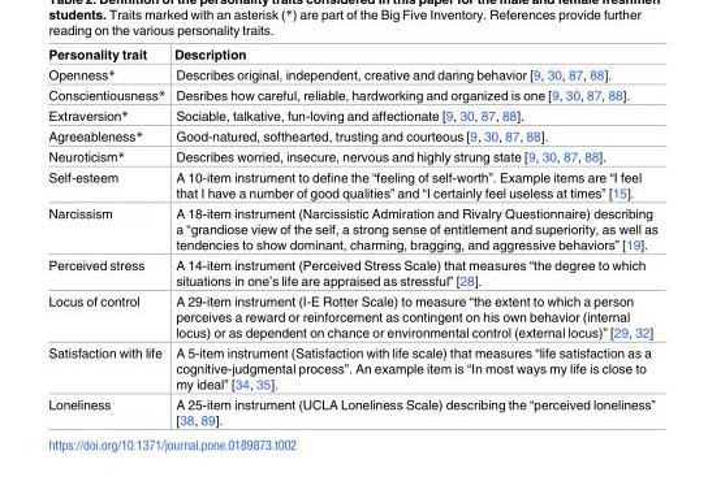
<table><thead><tr><td>Personality trait</td><td>Description</td></tr></thead><tbody><tr><td>Openness*</td><td>Describes original, independent, creative and daring behavior [9, 30, 87, 88].</td></tr><tr><td>Conscientiousness*</td><td>Desribes how careful, reliable, hardworking and organized is one [9, 30, 87, 88].</td></tr><tr><td>Extraversion*</td><td>Sociable, talkative, fun-loving and affectionate [9, 30, 87, 88].</td></tr><tr><td>Agreeableness*</td><td>Good-natured, softhearted, trusting and courteous [9, 30, 87, 88].</td></tr><tr><td>Neuroticism*</td><td>Describes worried, insecure, nervous and highly strung state [9, 30, 87, 88].</td></tr><tr><td>Self-esteem</td><td>A 10-item instrument to define the “feeling of self-worth”. Example items are “I feel that I have a number of good qualities” and “I certainly feel useless at times” [15].</td></tr><tr><td>Narcissism</td><td>A 18-item instrument (Narcissistic Admiration and Rivalry Questionnaire) describing a “grandiose view of the self, a strong sense of entitlement and superiority, as well as tendencies to show dominant, charming, bragging, and aggressive behaviors” [19].</td></tr><tr><td>Perceived stress</td><td>A 14-item instrument (Perceived Stress Scale) that measures “the degree to which situations in one’s life are appraised as stressful” [28].</td></tr><tr><td>Locus of control</td><td>A 29-item instrument (I-E Rotter Scale) to measure “the extent to which a person perceives a reward or reinforcement as contingent on his own behavior (internal locus) or as dependent on chance or environmental control (external locus)” [29, 32]</td></tr><tr><td>Satisfaction with life</td><td>A 5-item instrument (Satisfaction with life scale) that measures “life satisfaction as a cognitive-judgmental process”. An example item is “In most ways my life is close to my ideal” [34, 35].</td></tr><tr><td>Loneliness</td><td>A 25-item instrument (UCLA Loneliness Scale) describing the “perceived loneliness” [38, 89].</td></tr></tbody></table>